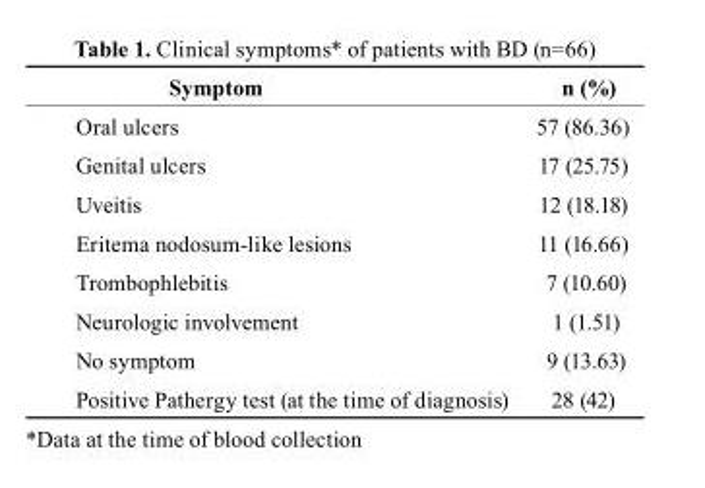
<table><thead><tr><td>symptom</td><td>n (%)</td></tr></thead><tbody><tr><td>Oral ulcers</td><td>57 (86.36)</td></tr><tr><td>Genital ulcers</td><td>17 (25.75)</td></tr><tr><td>Uveitis</td><td>12 (18.18)</td></tr><tr><td>Eritema nodosum-like lesions</td><td>11 (16.66)</td></tr><tr><td>Trombophlebitis</td><td>7 (10.60)</td></tr><tr><td>Neurologic involvement</td><td>1 (1.51)</td></tr><tr><td>No symptom</td><td>9 (13.63)</td></tr><tr><td>Positive Pathergy test (at the time of diagnosis)</td><td>28 (42)</td></tr></tbody></table>